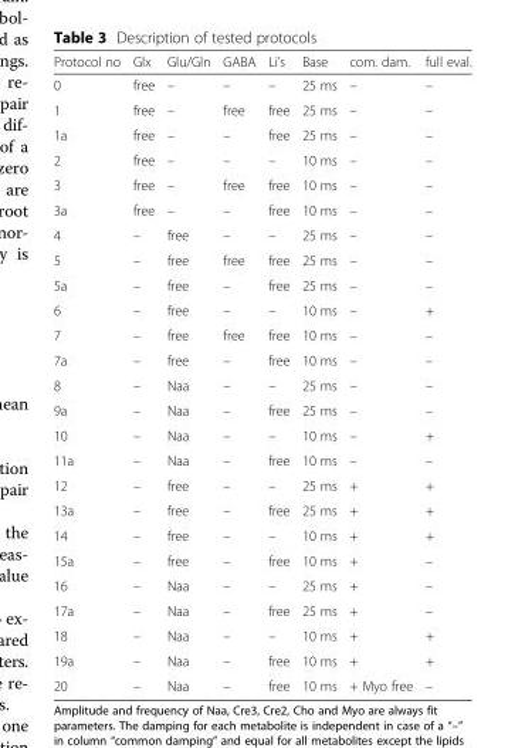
<table><thead><tr><td>Protocol no</td><td>Glx</td><td>Glu/Gln</td><td>GABA</td><td>Li’s</td><td>Base</td><td>com. dam.</td><td>full eval.</td></tr></thead><tbody><tr><td>0</td><td>free</td><td>–</td><td>–</td><td>–</td><td>25 ms</td><td>–</td><td>–</td></tr><tr><td>1</td><td>free</td><td>–</td><td>free</td><td>free</td><td>25 ms</td><td>–</td><td>–</td></tr><tr><td>1a</td><td>free</td><td>–</td><td>–</td><td>free</td><td>25 ms</td><td>–</td><td>–</td></tr><tr><td>2</td><td>free</td><td>–</td><td>–</td><td>–</td><td>10 ms</td><td>–</td><td>–</td></tr><tr><td>3</td><td>free</td><td>–</td><td>free</td><td>free</td><td>10 ms</td><td>–</td><td>–</td></tr><tr><td>3a</td><td>free</td><td>–</td><td>–</td><td>free</td><td>10 ms</td><td>–</td><td>–</td></tr><tr><td>4</td><td>–</td><td>free</td><td>–</td><td>–</td><td>25 ms</td><td>–</td><td>–</td></tr><tr><td>5</td><td>–</td><td>free</td><td>free</td><td>free</td><td>25 ms</td><td>–</td><td>–</td></tr><tr><td>5a</td><td>–</td><td>free</td><td>–</td><td>free</td><td>25 ms</td><td>–</td><td>–</td></tr><tr><td>6</td><td>–</td><td>free</td><td>–</td><td>–</td><td>10 ms</td><td>–</td><td>+</td></tr><tr><td>7</td><td>–</td><td>free</td><td>free</td><td>free</td><td>10 ms</td><td>–</td><td>–</td></tr><tr><td>7a</td><td>–</td><td>free</td><td>–</td><td>free</td><td>10 ms</td><td>–</td><td>–</td></tr><tr><td>8</td><td>–</td><td>Naa</td><td>–</td><td>–</td><td>25 ms</td><td>–</td><td>–</td></tr><tr><td>9a</td><td>–</td><td>Naa</td><td>–</td><td>free</td><td>25 ms</td><td>–</td><td>–</td></tr><tr><td>10</td><td>–</td><td>Naa</td><td>–</td><td>–</td><td>10 ms</td><td>–</td><td>+</td></tr><tr><td>11a</td><td>–</td><td>Naa</td><td>–</td><td>free</td><td>10 ms</td><td>–</td><td>–</td></tr><tr><td>12</td><td>–</td><td>free</td><td>–</td><td>–</td><td>25 ms</td><td>+</td><td>+</td></tr><tr><td>13a</td><td>–</td><td>free</td><td>–</td><td>free</td><td>25 ms</td><td>+</td><td>+</td></tr><tr><td>14</td><td>–</td><td>free</td><td>–</td><td>–</td><td>10 ms</td><td>+</td><td>+</td></tr><tr><td>15a</td><td>–</td><td>free</td><td>–</td><td>free</td><td>10 ms</td><td>+</td><td>–</td></tr><tr><td>16</td><td>–</td><td>Naa</td><td>–</td><td>–</td><td>25 ms</td><td>+</td><td>–</td></tr><tr><td>17a</td><td>–</td><td>Naa</td><td>–</td><td>free</td><td>25 ms</td><td>+</td><td>–</td></tr><tr><td>18</td><td>–</td><td>Naa</td><td>–</td><td>–</td><td>10 ms</td><td>+</td><td>+</td></tr><tr><td>19a</td><td>–</td><td>Naa</td><td>–</td><td>free</td><td>10 ms</td><td>+</td><td>+</td></tr><tr><td>20</td><td>–</td><td>Naa</td><td>–</td><td>free</td><td>10 ms</td><td>+ Myo free</td><td>–</td></tr></tbody></table>